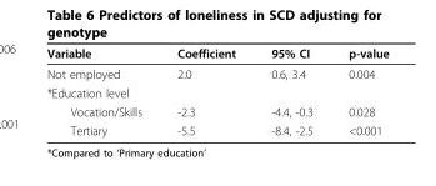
<table><thead><tr><td>Variable</td><td>Coefficient</td><td>95% CI</td><td>p-value</td></tr></thead><tbody><tr><td>Not employed</td><td>2.0</td><td>0.6, 3.4</td><td>0.004</td></tr><tr><td colspan="4">*Education level</td></tr><tr><td>Vocation/Skills</td><td>-2.3</td><td>-4.4, -0.3</td><td>0.028</td></tr><tr><td>Tertiary</td><td>-5.5</td><td>-8.4, -2.5</td><td>&lt;0.001</td></tr></tbody></table>